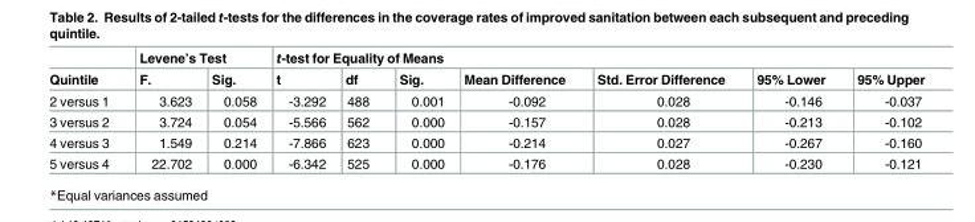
<table><thead><tr><td rowspan="2">Quintile</td><td colspan="2">Levene’s Test</td><td colspan="7">t-test for Equality of Means</td></tr><tr><td>F.</td><td>Sig.</td><td>t</td><td>df</td><td>Sig.</td><td>Mean Difference</td><td>Std. Error Difference</td><td>95% Lower</td><td>95% Upper</td></tr></thead><tbody><tr><td>2 versus 1</td><td>3.623</td><td>0.058</td><td>-3.292</td><td>488</td><td>0.001</td><td>-0.092</td><td>0.028</td><td>-0.146</td><td>-0.037</td></tr><tr><td>3 versus 2</td><td>3.724</td><td>0.054</td><td>-5.566</td><td>562</td><td>0.000</td><td>-0.157</td><td>0.028</td><td>-0.213</td><td>-0.102</td></tr><tr><td>4 versus 3</td><td>1.549</td><td>0.214</td><td>-7.866</td><td>623</td><td>0.000</td><td>-0.214</td><td>0.027</td><td>-0.267</td><td>-0.160</td></tr><tr><td>5 versus 4</td><td>22.702</td><td>0.000</td><td>-6.342</td><td>525</td><td>0.000</td><td>-0.176</td><td>0.028</td><td>-0.230</td><td>-0.121</td></tr></tbody></table>